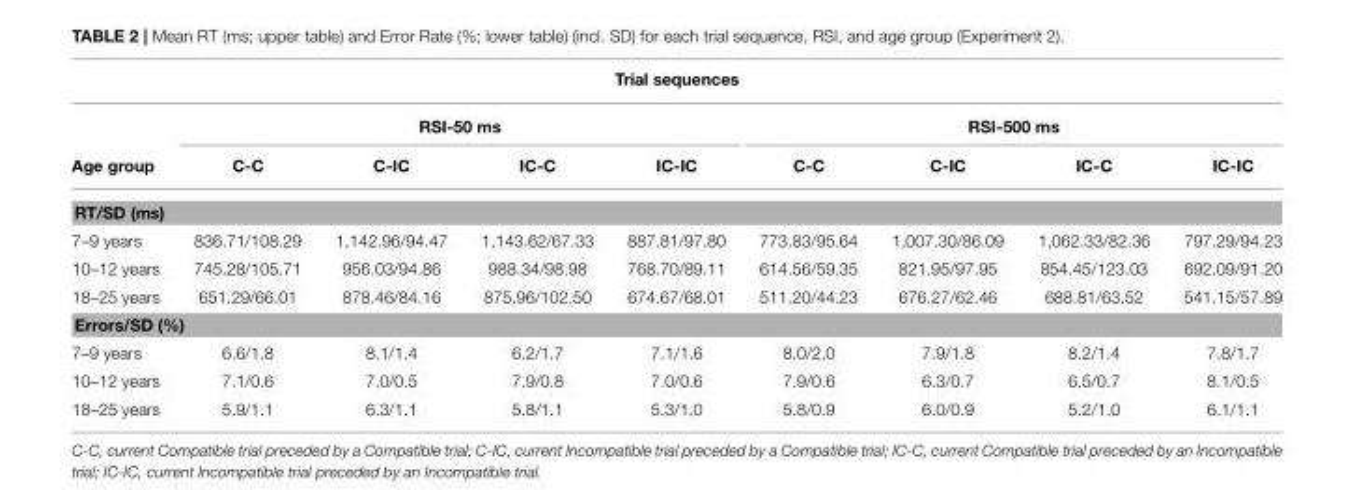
<table><thead><tr><td colspan="9">Trial sequences</td></tr><tr><td rowspan="2">Age group</td><td colspan="4">RSI-50 ms</td><td colspan="4">RSI-500 ms</td></tr><tr><td>C-C</td><td>C-IC</td><td>IC-C</td><td>IC-IC</td><td>C-C</td><td>C-IC</td><td>IC-C</td><td>IC-IC</td></tr></thead><tbody><tr><td colspan="9">RT/SD (ms)</td></tr><tr><td>7–9 years</td><td>836.71/108.29</td><td>1,142.96/94.47</td><td>1,143.62/67.33</td><td>887.81/97.80</td><td>773.83/95.64</td><td>1,007.30/86.09</td><td>1,062.33/82.36</td><td>797.29/94.23</td></tr><tr><td>10–12 years</td><td>745.28/105.71</td><td>956.03/94.86</td><td>988.34/98.98</td><td>768.70/89.11</td><td>614.56/59.35</td><td>821.95/97.95</td><td>854.45/123.03</td><td>692.09/91.20</td></tr><tr><td>18–25 years</td><td>651.29/66.01</td><td>878.46/84.16</td><td>875.96/102.50</td><td>674.67/68.01</td><td>511.20/44.23</td><td>676.27/62.46</td><td>688.81/63.52</td><td>541.15/57.89</td></tr><tr><td colspan="9">Errors/SD (%)</td></tr><tr><td>7–9 years</td><td>6.6/1.8</td><td>8.1/1.4</td><td>6.2/1.7</td><td>7.1/1.6</td><td>8.0/2.0</td><td>7.9/1.8</td><td>8.2/1.4</td><td>7.8/1.7</td></tr><tr><td>10–12 years</td><td>7.1/0.6</td><td>7.0/0.5</td><td>7.9/0.8</td><td>7.0/0.6</td><td>7.9/0.6</td><td>6.3/0.7</td><td>6.5/0.7</td><td>8.1/0.5</td></tr><tr><td>18–25 years</td><td>5.9/1.1</td><td>6.3/1.1</td><td>5.8/1.1</td><td>5.3/1.0</td><td>5.8/0.9</td><td>6.0/0.9</td><td>5.2/1.0</td><td>6.1/1.1</td></tr></tbody></table>